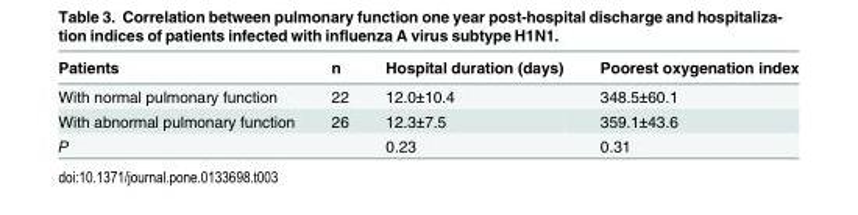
<table><thead><tr><td>Patients</td><td>n</td><td>Hospital duration (days)</td><td>Poorest oxygenation index</td></tr></thead><tbody><tr><td>With normal pulmonary function</td><td>22</td><td>12.0±10.4</td><td>348.5±60.1</td></tr><tr><td>With abnormal pulmonary function</td><td>26</td><td>12.3±7.5</td><td>359.1±43.6</td></tr><tr><td>P</td><td></td><td>0.23</td><td>0.31</td></tr></tbody></table>